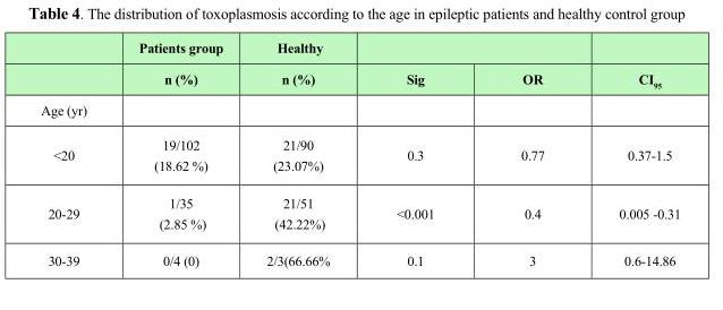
<table><thead><tr><td rowspan="2"></td><td rowspan="2">Patients group n (%)</td><td rowspan="2">Healthy n (%)</td><td rowspan="2">Sig</td><td rowspan="2">OR</td><td rowspan="2">CI<sub>95</sub></td></tr><tr></tr></thead><tbody><tr><td colspan="6">Age (yr)</td></tr><tr><td>&lt;20</td><td>19/102 (18.62 %)</td><td>21/90 (23.07%)</td><td>0.3</td><td>0.77</td><td>0.37-1.5</td></tr><tr><td>20-29</td><td>1/35 (2.85 %)</td><td>21/51 (42.22%)</td><td>&lt;0.001</td><td>0.4</td><td>0.005 -0.31</td></tr><tr><td>30-39</td><td>0/4 (0)</td><td>2/3(66.66%</td><td>0.1</td><td>3</td><td>0.6-14.86</td></tr></tbody></table>